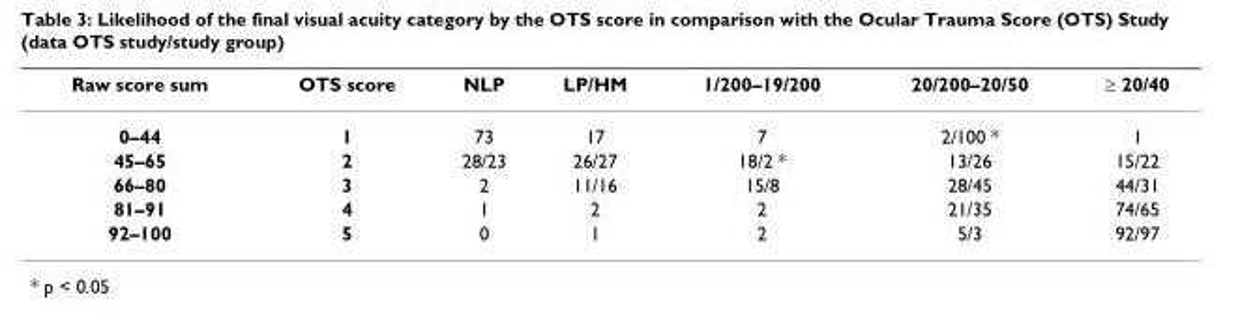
<table><thead><tr><td>Raw score sum</td><td>OTS score</td><td>NLP</td><td>LP/HM</td><td>1/200–19/200</td><td>20/200–20/50</td><td>≥ 20/40</td></tr></thead><tbody><tr><td>0–44</td><td>1</td><td>73</td><td>17</td><td>7</td><td>2/100 *</td><td>1</td></tr><tr><td>45–65</td><td>2</td><td>28/23</td><td>26/27</td><td>18/2 *</td><td>13/26</td><td>15/22</td></tr><tr><td>66–80</td><td>3</td><td>2</td><td>11/16</td><td>15/8</td><td>28/45</td><td>44/31</td></tr><tr><td>81–91</td><td>4</td><td>1</td><td>2</td><td>2</td><td>21/35</td><td>74/65</td></tr><tr><td>92–100</td><td>5</td><td>0</td><td>1</td><td>2</td><td>5/3</td><td>92/97</td></tr></tbody></table>